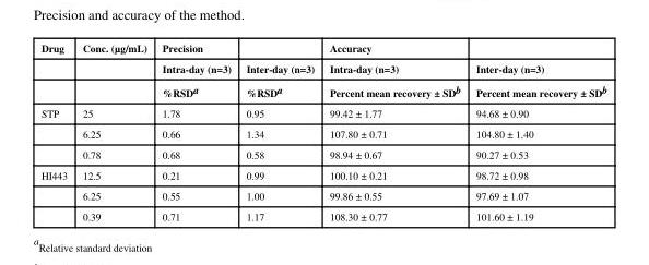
<table><thead><tr><td rowspan="3">Drug</td><td rowspan="3">Conc. (μg/mL)</td><td rowspan="3">Precision Intra-day (n=3) %RSD<sup>a</sup></td><td rowspan="3">Inter-day (n=3) %RSD<sup>a</sup></td><td rowspan="3">Accuracy Intra-day (n=3) Percent mean recovery ± SD<sup>b</sup></td><td rowspan="3">Inter-day (n=3) Percent mean recovery ± SD<sup>b</sup></td></tr><tr></tr><tr></tr></thead><tbody><tr><td rowspan="3">STP</td><td>25</td><td>1.78</td><td>0.95</td><td>99.42 ± 1.77</td><td>94.68 ± 0.90</td></tr><tr><td>6.25</td><td>0.66</td><td>1.34</td><td>107.80 ± 0.71</td><td>104.80 ± 1.40</td></tr><tr><td>0.78</td><td>0.68</td><td>0.58</td><td>98.94 ± 0.67</td><td>90.27 ± 0.53</td></tr><tr><td rowspan="3">HI443</td><td>12.5</td><td>0.21</td><td>0.99</td><td>100.10 ± 0.21</td><td>98.72 ± 0.98</td></tr><tr><td>6.25</td><td>0.55</td><td>1.00</td><td>99.86 ± 0.55</td><td>97.69 ± 1.07</td></tr><tr><td>0.39</td><td>0.71</td><td>1.17</td><td>108.30 ± 0.77</td><td>101.60 ± 1.19</td></tr></tbody></table>